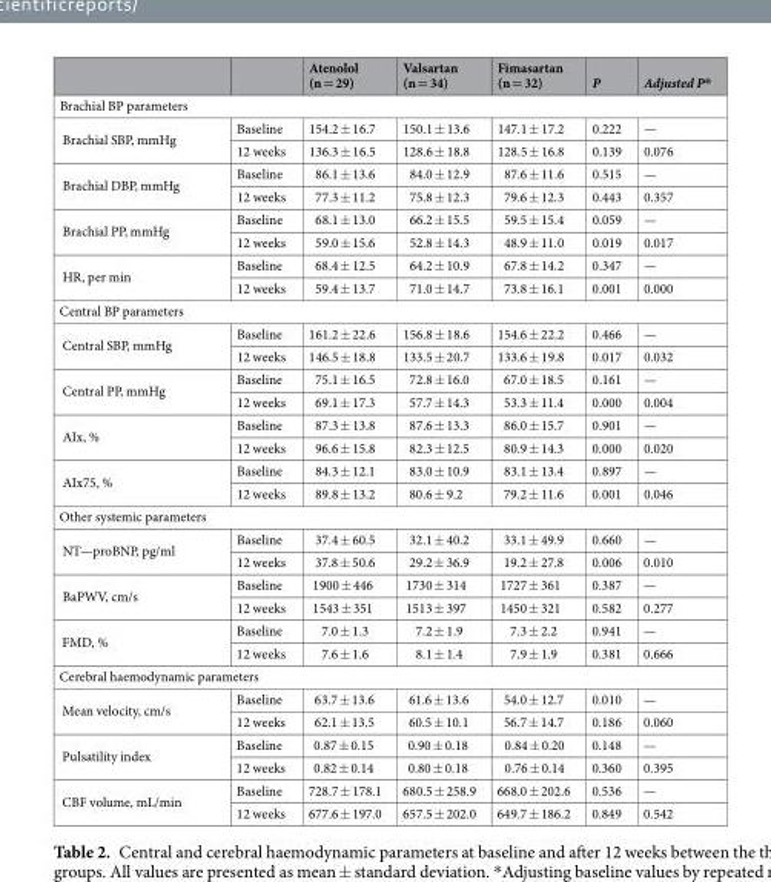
<table><thead><tr><td></td><td></td><td>Atenolol (n = 29)</td><td>Valsartan (n = 34)</td><td>Fimasartan (n = 32)</td><td>P</td><td>Adjusted P*</td></tr></thead><tbody><tr><td colspan="7">Brachial BP parameters</td></tr><tr><td rowspan="2">Brachial SBP, mmHg</td><td>Baseline</td><td>154.2 ± 16.7</td><td>150.1 ± 13.6</td><td>147.1 ± 17.2</td><td>0.222</td><td>—</td></tr><tr><td>12 weeks</td><td>136.3 ± 16.5</td><td>128.6 ± 18.8</td><td>128.5 ± 16.8</td><td>0.139</td><td>0.076</td></tr><tr><td rowspan="2">Brachial DBP, mmHg</td><td>Baseline</td><td>86.1 ± 13.6</td><td>84.0 ± 12.9</td><td>87.6 ± 11.6</td><td>0.515</td><td>—</td></tr><tr><td>12 weeks</td><td>77.3 ± 11.2</td><td>75.8 ± 12.3</td><td>79.6 ± 12.3</td><td>0.443</td><td>0.357</td></tr><tr><td rowspan="2">Brachial PP, mmHg</td><td>Baseline</td><td>68.1 ± 13.0</td><td>66.2 ± 15.5</td><td>59.5 ± 15.4</td><td>0.059</td><td>—</td></tr><tr><td>12 weeks</td><td>59.0 ± 15.6</td><td>52.8 ± 14.3</td><td>48.9 ± 11.0</td><td>0.019</td><td>0.017</td></tr><tr><td rowspan="2">HR, per min</td><td>Baseline</td><td>68.4 ± 12.5</td><td>64.2 ± 10.9</td><td>67.8 ± 14.2</td><td>0.347</td><td>—</td></tr><tr><td>12 weeks</td><td>59.4 ± 13.7</td><td>71.0 ± 14.7</td><td>73.8 ± 16.1</td><td>0.001</td><td>0.000</td></tr><tr><td colspan="7">Central BP parameters</td></tr><tr><td rowspan="2">Central SBP, mmHg</td><td>Baseline</td><td>161.2 ± 22.6</td><td>156.8 ± 18.6</td><td>154.6 ± 22.2</td><td>0.466</td><td>—</td></tr><tr><td>12 weeks</td><td>146.5 ± 18.8</td><td>133.5 ± 20.7</td><td>133.6 ± 19.8</td><td>0.017</td><td>0.032</td></tr><tr><td rowspan="2">Central PP, mmHg</td><td>Baseline</td><td>75.1 ± 16.5</td><td>72.8 ± 16.0</td><td>67.0 ± 18.5</td><td>0.161</td><td>—</td></tr><tr><td>12 weeks</td><td>69.1 ± 17.3</td><td>57.7 ± 14.3</td><td>53.3 ± 11.4</td><td>0.000</td><td>0.004</td></tr><tr><td rowspan="2">AIx, %</td><td>Baseline</td><td>87.3 ± 13.8</td><td>87.6 ± 13.3</td><td>86.0 ± 15.7</td><td>0.901</td><td>—</td></tr><tr><td>12 weeks</td><td>96.6 ± 15.8</td><td>82.3 ± 12.5</td><td>80.9 ± 14.3</td><td>0.000</td><td>0.020</td></tr><tr><td rowspan="2">AIx75, %</td><td>Baseline</td><td>84.3 ± 12.1</td><td>83.0 ± 10.9</td><td>83.1 ± 13.4</td><td>0.897</td><td>—</td></tr><tr><td>12 weeks</td><td>89.8 ± 13.2</td><td>80.6 ± 9.2</td><td>79.2 ± 11.6</td><td>0.001</td><td>0.046</td></tr><tr><td colspan="7">Other systemic parameters</td></tr><tr><td rowspan="2">NT—proBNP, pg/ml</td><td>Baseline</td><td>37.4 ± 60.5</td><td>32.1 ± 40.2</td><td>33.1 ± 49.9</td><td>0.660</td><td>—</td></tr><tr><td>12 weeks</td><td>37.8 ± 50.6</td><td>29.2 ± 36.9</td><td>19.2 ± 27.8</td><td>0.006</td><td>0.010</td></tr><tr><td rowspan="2">BaPWV, cm/s</td><td>Baseline</td><td>1900 ± 446</td><td>1730 ± 314</td><td>1727 ± 361</td><td>0.387</td><td>—</td></tr><tr><td>12 weeks</td><td>1543 ± 351</td><td>1513 ± 397</td><td>1450 ± 321</td><td>0.582</td><td>0.277</td></tr><tr><td rowspan="2">FMD, %</td><td>Baseline</td><td>7.0 ± 1.3</td><td>7.2 ± 1.9</td><td>7.3 ± 2.2</td><td>0.941</td><td>—</td></tr><tr><td>12 weeks</td><td>7.6 ± 1.6</td><td>8.1 ± 1.4</td><td>7.9 ± 1.9</td><td>0.381</td><td>0.666</td></tr><tr><td colspan="7">Cerebral haemodynamic parameters</td></tr><tr><td rowspan="2">Mean velocity, cm/s</td><td>Baseline</td><td>63.7 ± 13.6</td><td>61.6 ± 13.6</td><td>54.0 ± 12.7</td><td>0.010</td><td>—</td></tr><tr><td>12 weeks</td><td>62.1 ± 13.5</td><td>60.5 ± 10.1</td><td>56.7 ± 14.7</td><td>0.186</td><td>0.060</td></tr><tr><td rowspan="2">Pulsatility index</td><td>Baseline</td><td>0.87 ± 0.15</td><td>0.90 ± 0.18</td><td>0.84 ± 0.20</td><td>0.148</td><td>—</td></tr><tr><td>12 weeks</td><td>0.82 ± 0.14</td><td>0.80 ± 0.18</td><td>0.76 ± 0.14</td><td>0.360</td><td>0.395</td></tr><tr><td rowspan="2">CBF volume, mL/min</td><td>Baseline</td><td>728.7 ± 178.1</td><td>680.5 ± 258.9</td><td>668.0 ± 202.6</td><td>0.536</td><td>—</td></tr><tr><td>12 weeks</td><td>677.6 ± 197.0</td><td>657.5 ± 202.0</td><td>649.7 ± 186.2</td><td>0.849</td><td>0.542</td></tr></tbody></table>